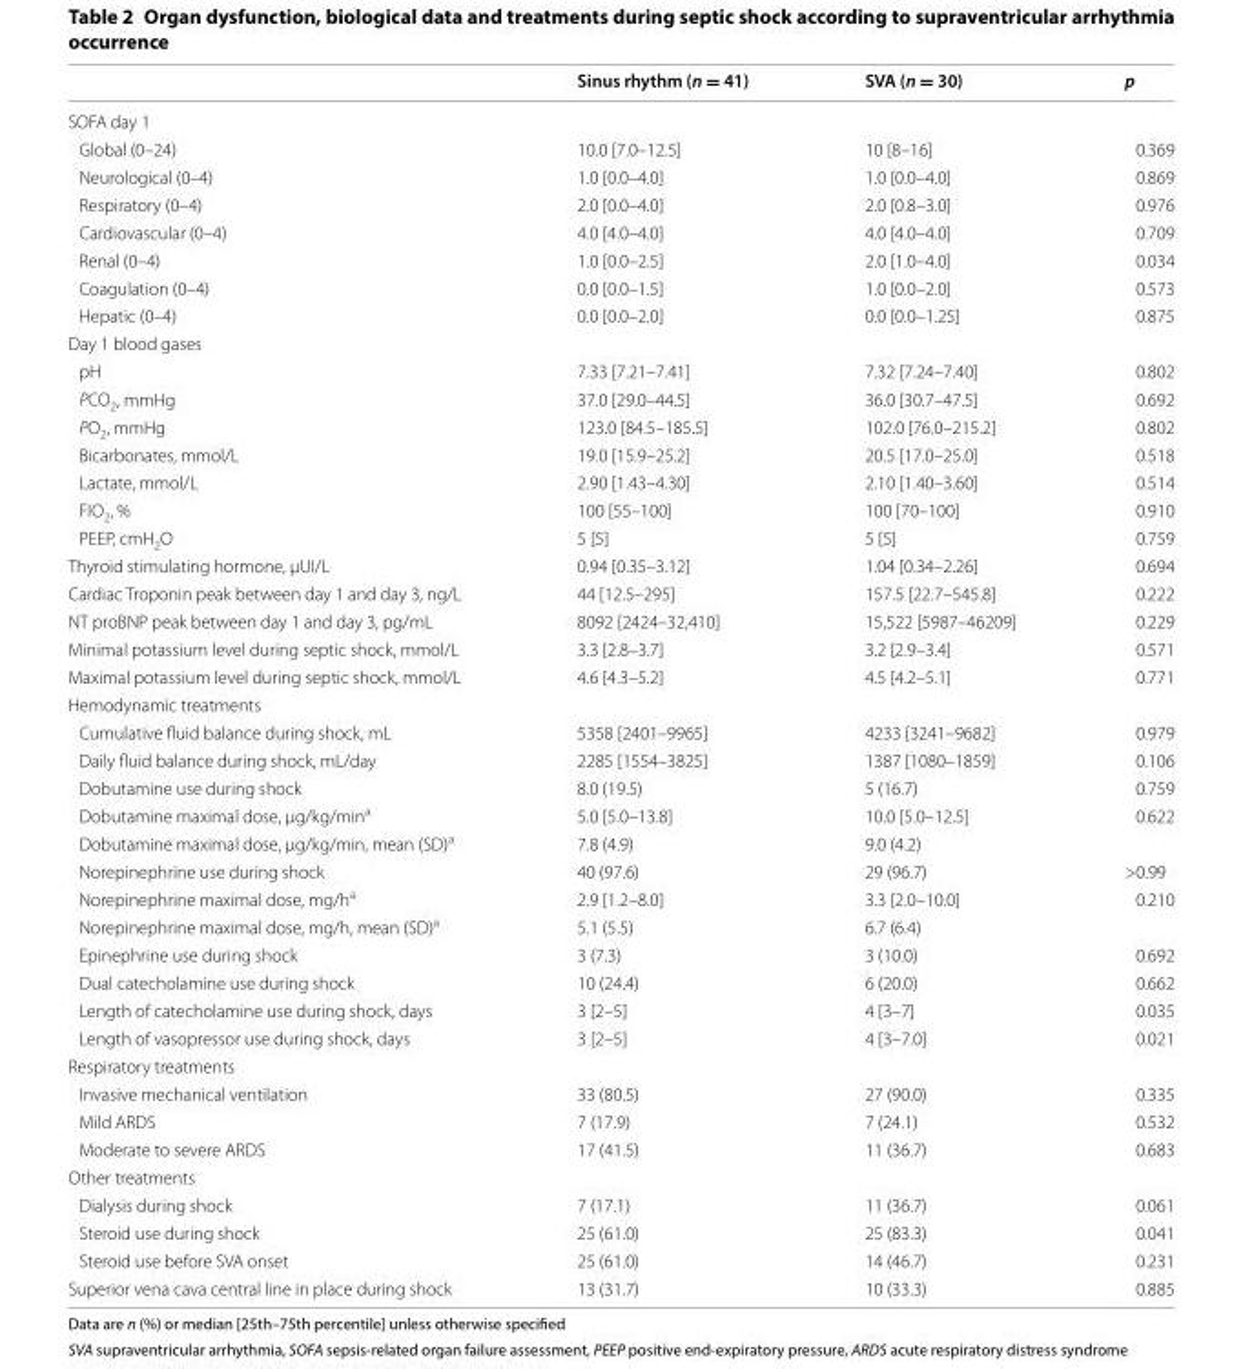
<table><thead><tr><td></td><td>Sinus rhythm (n = 41)</td><td>SVA (n = 30)</td><td>p</td></tr></thead><tbody><tr><td colspan="4">SOFA day 1</td></tr><tr><td>Global (0–24)</td><td>10.0 [7.0–12.5]</td><td>10 [8–16]</td><td>0.369</td></tr><tr><td>Neurological (0–4)</td><td>1.0 [0.0–4.0]</td><td>1.0 [0.0–4.0]</td><td>0.869</td></tr><tr><td>Respiratory (0–4)</td><td>2.0 [0.0–4.0]</td><td>2.0 [0.8–3.0]</td><td>0.976</td></tr><tr><td>Cardiovascular (0–4)</td><td>4.0 [4.0–4.0]</td><td>4.0 [4.0–4.0]</td><td>0.709</td></tr><tr><td>Renal (0–4)</td><td>1.0 [0.0–2.5]</td><td>2.0 [1.0–4.0]</td><td>0.034</td></tr><tr><td>Coagulation (0–4)</td><td>0.0 [0.0–1.5]</td><td>1.0 [0.0–2.0]</td><td>0.573</td></tr><tr><td>Hepatic (0–4)</td><td>0.0 [0.0–2.0]</td><td>0.0 [0.0–1.25]</td><td>0.875</td></tr><tr><td colspan="4">Day 1 blood gases</td></tr><tr><td>pH</td><td>7.33 [7.21–7.41]</td><td>7.32 [7.24–7.40]</td><td>0.802</td></tr><tr><td>PCO<sub>2</sub>, mmHg</td><td>37.0 [29.0–44.5]</td><td>36.0 [30.7–47.5]</td><td>0.692</td></tr><tr><td>PO<sub>2</sub>, mmHg</td><td>123.0 [84.5–185.5]</td><td>102.0 [76.0–215.2]</td><td>0.802</td></tr><tr><td>Bicarbonates, mmol/L</td><td>19.0 [15.9–25.2]</td><td>20.5 [17.0–25.0]</td><td>0.518</td></tr><tr><td>Lactate, mmol/L</td><td>2.90 [1.43–4.30]</td><td>2.10 [1.40–3.60]</td><td>0.514</td></tr><tr><td>FIO<sub>2</sub>, %</td><td>100 [55–100]</td><td>100 [70–100]</td><td>0.910</td></tr><tr><td>PEEP, cmH<sub>2</sub>O</td><td>5 [5]</td><td>5 [5]</td><td>0.759</td></tr><tr><td>Thyroid stimulating hormone, µUI/L</td><td>0.94 [0.35–3.12]</td><td>1.04 [0.34–2.26]</td><td>0.694</td></tr><tr><td>Cardiac Troponin peak between day 1 and day 3, ng/L</td><td>44 [12.5–295]</td><td>157.5 [22.7–545.8]</td><td>0.222</td></tr><tr><td>NT proBNP peak between day 1 and day 3, pg/mL</td><td>8092 [2424–32,410]</td><td>15,522 [5987–46209]</td><td>0.229</td></tr><tr><td>Minimal potassium level during septic shock, mmol/L</td><td>3.3 [2.8–3.7]</td><td>3.2 [2.9–3.4]</td><td>0.571</td></tr><tr><td>Maximal potassium level during septic shock, mmol/L</td><td>4.6 [4.3–5.2]</td><td>4.5 [4.2–5.1]</td><td>0.771</td></tr><tr><td colspan="4">Hemodynamic treatments</td></tr><tr><td>Cumulative fluid balance during shock, mL</td><td>5358 [2401–9965]</td><td>4233 [3241–9682]</td><td>0.979</td></tr><tr><td>Daily fluid balance during shock, mL/day</td><td>2285 [1554–3825]</td><td>1387 [1080–1859]</td><td>0.106</td></tr><tr><td>Dobutamine use during shock</td><td>8.0 (19.5)</td><td>5 (16.7)</td><td>0.759</td></tr><tr><td>Dobutamine maximal dose, µg/kg/min<sup>a</sup></td><td>5.0 [5.0–13.8]</td><td>10.0 [5.0–12.5]</td><td>0.622</td></tr><tr><td>Dobutamine maximal dose, µg/kg/min, mean (SD)<sup>a</sup></td><td>7.8 (4.9)</td><td>9.0 (4.2)</td><td></td></tr><tr><td>Norepinephrine use during shock</td><td>40 (97.6)</td><td>29 (96.7)</td><td>&gt;0.99</td></tr><tr><td>Norepinephrine maximal dose, mg/h<sup>a</sup></td><td>2.9 [1.2–8.0]</td><td>3.3 [2.0–10.0]</td><td>0.210</td></tr><tr><td>Norepinephrine maximal dose, mg/h, mean (SD)<sup>a</sup></td><td>5.1 (5.5)</td><td>6.7 (6.4)</td><td></td></tr><tr><td>Epinephrine use during shock</td><td>3 (7.3)</td><td>3 (10.0)</td><td>0.692</td></tr><tr><td>Dual catecholamine use during shock</td><td>10 (24.4)</td><td>6 (20.0)</td><td>0.662</td></tr><tr><td>Length of catecholamine use during shock, days</td><td>3 [2–5]</td><td>4 [3–7]</td><td>0.035</td></tr><tr><td>Length of vasopressor use during shock, days</td><td>3 [2–5]</td><td>4 [3–7.0]</td><td>0.021</td></tr><tr><td colspan="4">Respiratory treatments</td></tr><tr><td>Invasive mechanical ventilation</td><td>33 (80.5)</td><td>27 (90.0)</td><td>0.335</td></tr><tr><td>Mild ARDS</td><td>7 (17.9)</td><td>7 (24.1)</td><td>0.532</td></tr><tr><td>Moderate to severe ARDS</td><td>17 (41.5)</td><td>11 (36.7)</td><td>0.683</td></tr><tr><td colspan="4">Other treatments</td></tr><tr><td>Dialysis during shock</td><td>7 (17.1)</td><td>11 (36.7)</td><td>0.061</td></tr><tr><td>Steroid use during shock</td><td>25 (61.0)</td><td>25 (83.3)</td><td>0.041</td></tr><tr><td>Steroid use before SVA onset</td><td>25 (61.0)</td><td>14 (46.7)</td><td>0.231</td></tr><tr><td>Superior vena cava central line in place during shock</td><td>13 (31.7)</td><td>10 (33.3)</td><td>0.885</td></tr></tbody></table>